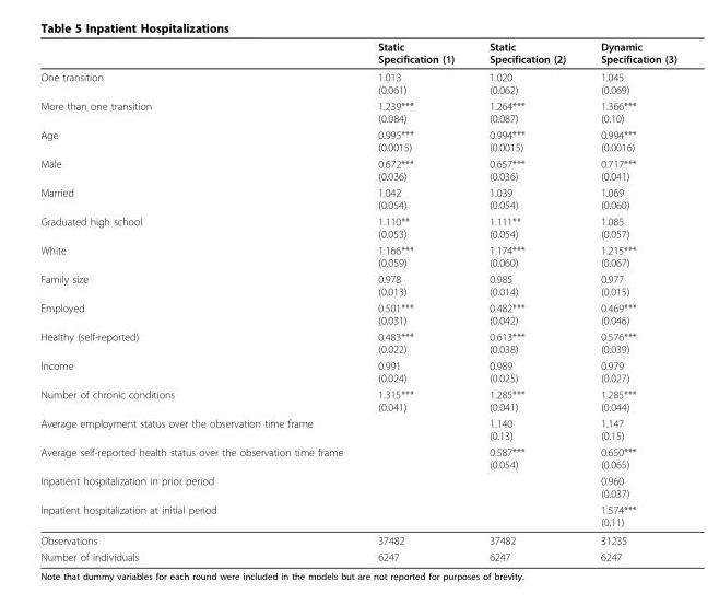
<table><thead><tr><td></td><td>Static Specification (1)</td><td>Static Specification (2)</td><td>Dynamic Specification (3)</td></tr></thead><tbody><tr><td>One transition</td><td>1.013 (0.061)</td><td>1.020 (0.062)</td><td>1.045 (0.069)</td></tr><tr><td>More than one transition</td><td>1.239*** (0.084)</td><td>1.264*** (0.087)</td><td>1.366*** (0.10)</td></tr><tr><td>Age</td><td>0.995*** (0.0015)</td><td>0.994*** (0.0015)</td><td>0.994*** (0.0016)</td></tr><tr><td>Male</td><td>0.672*** (0.036)</td><td>0.657*** (0.036)</td><td>0.717*** (0.041)</td></tr><tr><td>Married</td><td>1.042 (0.054)</td><td>1.039 (0.054)</td><td>1.069 (0.060)</td></tr><tr><td>Graduated high school</td><td>1.110** (0.053)</td><td>1.111** (0.054)</td><td>1.085 (0.057)</td></tr><tr><td>White</td><td>1.166*** (0.059)</td><td>1.174*** (0.060)</td><td>1.215*** (0.067)</td></tr><tr><td>Family size</td><td>0.978 (0.013)</td><td>0.985 (0.014)</td><td>0.977 (0.015)</td></tr><tr><td>Employed</td><td>0.501*** (0.031)</td><td>0.482*** (0.042)</td><td>0.469*** (0.046)</td></tr><tr><td>Healthy (self-reported)</td><td>0.483*** (0.022)</td><td>0.613*** (0.038)</td><td>0.576*** (0.039)</td></tr><tr><td>Income</td><td>0.991 (0.024)</td><td>0.989 (0.025)</td><td>0.979 (0.027)</td></tr><tr><td>Number of chronic conditions</td><td>1.315*** (0.041)</td><td>1.285*** (0.041)</td><td>1.285*** (0.044)</td></tr><tr><td>Average employment status over the observation time frame</td><td></td><td>1.140 (0.13)</td><td>1.147 (0.15)</td></tr><tr><td>Average self-reported health status over the observation time frame</td><td></td><td>0.587*** (0.054)</td><td>0.650*** (0.065)</td></tr><tr><td>Inpatient hospitalization in prior period</td><td></td><td></td><td>0.960 (0.037)</td></tr><tr><td>Inpatient hospitalization at initial period</td><td></td><td></td><td>1.574*** (0.11)</td></tr><tr><td>Observations</td><td>37482</td><td>37482</td><td>31235</td></tr><tr><td>Number of individuals</td><td>6247</td><td>6247</td><td>6247</td></tr></tbody></table>